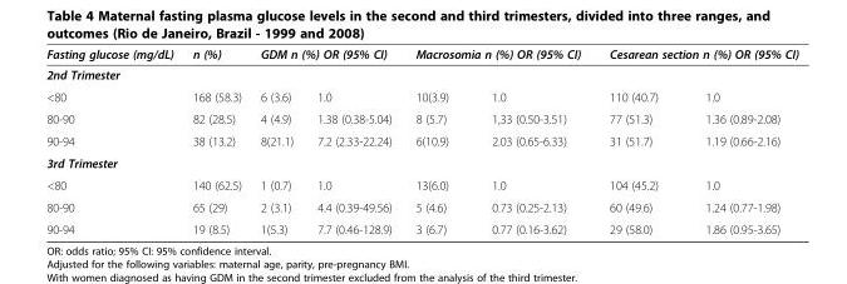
<table><thead><tr><td>Fasting glucose (mg/dL)</td><td>n (%)</td><td colspan="2">GDM n (%) OR (95% CI)</td><td colspan="2">Macrosomia n (%) OR (95% CI)</td><td colspan="2">Cesarean section n (%) OR (95% CI)</td></tr><tr><td colspan="8">2nd Trimester</td></tr><tr><td>&lt;80</td><td>168 (58.3)</td><td>6 (3.6)</td><td>1.0</td><td>10(3.9)</td><td>1.0</td><td>110 (40.7)</td><td>1.0</td></tr></thead><tbody><tr><td>80-90</td><td>82 (28.5)</td><td>4 (4.9)</td><td>1.38 (0.38-5.04)</td><td>8 (5.7)</td><td>1,33 (0.50-3.51)</td><td>77 (51.3)</td><td>1.36 (0.89-2.08)</td></tr><tr><td>90-94</td><td>38 (13.2)</td><td>8(21.1)</td><td>7.2 (2.33-22.24)</td><td>6(10.9)</td><td>2.03 (0.65-6.33)</td><td>31 (51.7)</td><td>1.19 (0.66-2.16)</td></tr><tr><td colspan="8">3rd Trimester</td></tr><tr><td>&lt;80</td><td>140 (62.5)</td><td>1 (0.7)</td><td>1.0</td><td>13(6.0)</td><td>1.0</td><td>104 (45.2)</td><td>1.0</td></tr><tr><td>80-90</td><td>65 (29)</td><td>2 (3.1)</td><td>4.4 (0.39-49.56)</td><td>5 (4.6)</td><td>0.73 (0.25-2.13)</td><td>60 (49.6)</td><td>1.24 (0.77-1.98)</td></tr><tr><td>90-94</td><td>19 (8.5)</td><td>1(5.3)</td><td>7.7 (0.46-128.9)</td><td>3 (6.7)</td><td>0.77 (0.16-3.62)</td><td>29 (58.0)</td><td>1.86 (0.95-3.65)</td></tr></tbody></table>